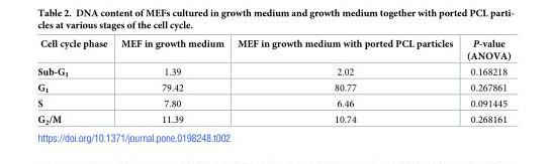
<table><thead><tr><td>Cell cycle phase</td><td>MEF in growth medium</td><td>MEF in growth medium with ported PCL particles</td><td>P-value (ANOVA)</td></tr></thead><tbody><tr><td>Sub-G<sub>1</sub></td><td>1.39</td><td>2.02</td><td>0.168218</td></tr><tr><td>G<sub>1</sub></td><td>79.42</td><td>80.77</td><td>0.267861</td></tr><tr><td>S</td><td>7.80</td><td>6.46</td><td>0.091445</td></tr><tr><td>G<sub>2</sub>/M</td><td>11.39</td><td>10.74</td><td>0.268161</td></tr></tbody></table>